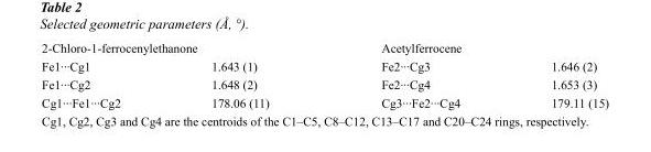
<table><tbody><tr><td>2-Chloro-1-ferrocenylethanone</td><td></td><td>Acetylferrocene</td><td></td></tr><tr><td>Fe1···Cg1</td><td>1.643 (1)</td><td>Fe2···Cg3</td><td>1.646 (2)</td></tr><tr><td>Fe1···Cg2</td><td>1.648 (2)</td><td>Fe2···Cg4</td><td>1.653 (3)</td></tr><tr><td>Cg1···Fe1···Cg2</td><td>178.06 (11)</td><td>Cg3···Fe2···Cg4</td><td>179.11 (15)</td></tr></tbody></table>